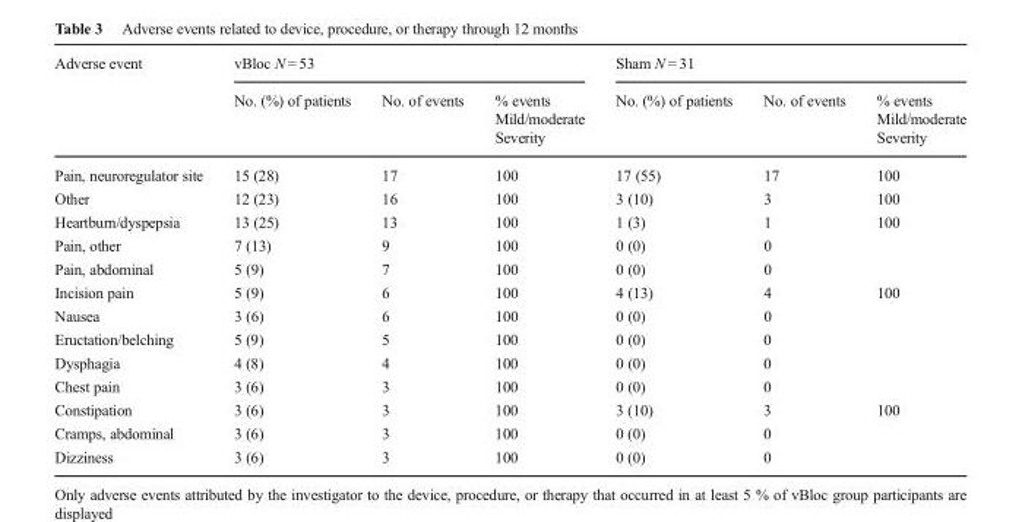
<table><thead><tr><td rowspan="2">Adverse event</td><td colspan="3">vBloc N = 53</td><td colspan="3">Sham N = 31</td></tr><tr><td>No. (%) of patients</td><td>No. of events</td><td>% events Mild/moderate Severity</td><td>No. (%) of patients</td><td>No. of events</td><td>% events Mild/moderate Severity</td></tr></thead><tbody><tr><td>Pain, neuroregulator site</td><td>15 (28)</td><td>17</td><td>100</td><td>17 (55)</td><td>17</td><td>100</td></tr><tr><td>Other</td><td>12 (23)</td><td>16</td><td>100</td><td>3 (10)</td><td>3</td><td>100</td></tr><tr><td>Heartburn/dyspepsia</td><td>13 (25)</td><td>13</td><td>100</td><td>1 (3)</td><td>1</td><td>100</td></tr><tr><td>Pain, other</td><td>7 (13)</td><td>9</td><td>100</td><td>0 (0)</td><td>0</td><td></td></tr><tr><td>Pain, abdominal</td><td>5 (9)</td><td>7</td><td>100</td><td>0 (0)</td><td>0</td><td></td></tr><tr><td>Incision pain</td><td>5 (9)</td><td>6</td><td>100</td><td>4 (13)</td><td>4</td><td>100</td></tr><tr><td>Nausea</td><td>3 (6)</td><td>6</td><td>100</td><td>0 (0)</td><td>0</td><td></td></tr><tr><td>Eructation/belching</td><td>5 (9)</td><td>5</td><td>100</td><td>0 (0)</td><td>0</td><td></td></tr><tr><td>Dysphagia</td><td>4 (8)</td><td>4</td><td>100</td><td>0 (0)</td><td>0</td><td></td></tr><tr><td>Chest pain</td><td>3 (6)</td><td>3</td><td>100</td><td>0 (0)</td><td>0</td><td></td></tr><tr><td>Constipation</td><td>3 (6)</td><td>3</td><td>100</td><td>3 (10)</td><td>3</td><td>100</td></tr><tr><td>Cramps, abdominal</td><td>3 (6)</td><td>3</td><td>100</td><td>0 (0)</td><td>0</td><td></td></tr><tr><td>Dizziness</td><td>3 (6)</td><td>3</td><td>100</td><td>0 (0)</td><td>0</td><td></td></tr></tbody></table>